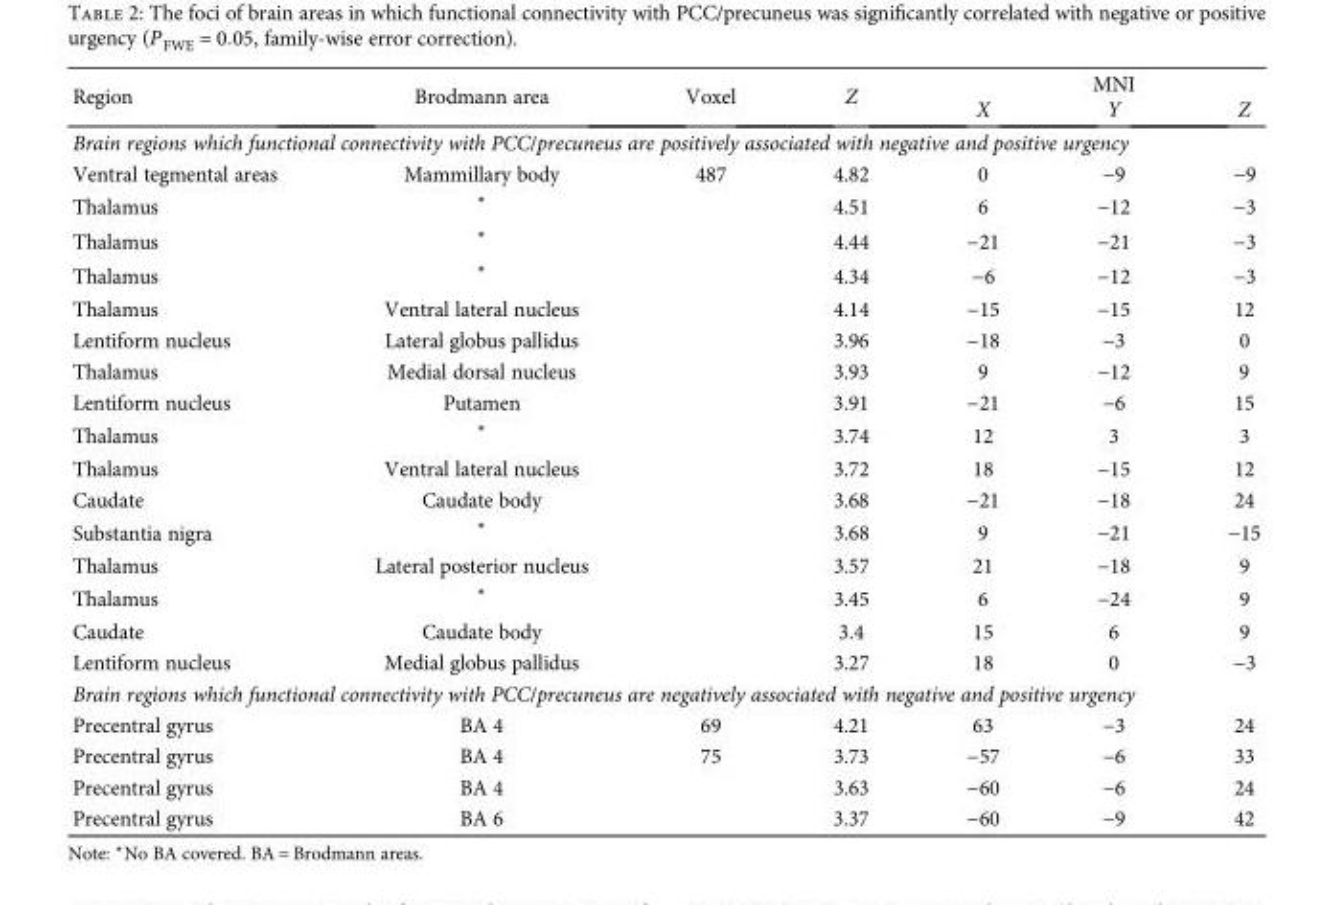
<table><thead><tr><td rowspan="2">Region</td><td rowspan="2">Brodmann area</td><td rowspan="2">Voxel</td><td rowspan="2">Z</td><td colspan="3">MNI</td></tr><tr><td>X</td><td>Y</td><td>Z</td></tr></thead><tbody><tr><td colspan="7">Brain regions which functional connectivity with PCC/precuneus are positively associated with negative and positive urgency</td></tr><tr><td>Ventral tegmental areas</td><td>Mammillary body</td><td>487</td><td>4.82</td><td>0</td><td>−9</td><td>−9</td></tr><tr><td>Thalamus</td><td>∗</td><td></td><td>4.51</td><td>6</td><td>−12</td><td>−3</td></tr><tr><td>Thalamus</td><td>∗</td><td></td><td>4.44</td><td>−21</td><td>−21</td><td>−3</td></tr><tr><td>Thalamus</td><td>∗</td><td></td><td>4.34</td><td>−6</td><td>−12</td><td>−3</td></tr><tr><td>Thalamus</td><td>Ventral lateral nucleus</td><td></td><td>4.14</td><td>−15</td><td>−15</td><td>12</td></tr><tr><td>Lentiform nucleus</td><td>Lateral globus pallidus</td><td></td><td>3.96</td><td>−18</td><td>−3</td><td>0</td></tr><tr><td>Thalamus</td><td>Medial dorsal nucleus</td><td></td><td>3.93</td><td>9</td><td>−12</td><td>9</td></tr><tr><td>Lentiform nucleus</td><td>Putamen</td><td></td><td>3.91</td><td>−21</td><td>−6</td><td>15</td></tr><tr><td>Thalamus</td><td>∗</td><td></td><td>3.74</td><td>12</td><td>3</td><td>3</td></tr><tr><td>Thalamus</td><td>Ventral lateral nucleus</td><td></td><td>3.72</td><td>18</td><td>−15</td><td>12</td></tr><tr><td>Caudate</td><td>Caudate body</td><td></td><td>3.68</td><td>−21</td><td>−18</td><td>24</td></tr><tr><td>Substantia nigra</td><td>∗</td><td></td><td>3.68</td><td>9</td><td>−21</td><td>−15</td></tr><tr><td>Thalamus</td><td>Lateral posterior nucleus</td><td></td><td>3.57</td><td>21</td><td>−18</td><td>9</td></tr><tr><td>Thalamus</td><td>∗</td><td></td><td>3.45</td><td>6</td><td>−24</td><td>9</td></tr><tr><td>Caudate</td><td>Caudate body</td><td></td><td>3.4</td><td>15</td><td>6</td><td>9</td></tr><tr><td>Lentiform nucleus</td><td>Medial globus pallidus</td><td></td><td>3.27</td><td>18</td><td>0</td><td>−3</td></tr><tr><td colspan="7">Brain regions which functional connectivity with PCC/precuneus are negatively associated with negative and positive urgency</td></tr><tr><td>Precentral gyrus</td><td>BA 4</td><td>69</td><td>4.21</td><td>63</td><td>−3</td><td>24</td></tr><tr><td>Precentral gyrus</td><td>BA 4</td><td>75</td><td>3.73</td><td>−57</td><td>−6</td><td>33</td></tr><tr><td>Precentral gyrus</td><td>BA 4</td><td></td><td>3.63</td><td>−60</td><td>−6</td><td>24</td></tr><tr><td>Precentral gyrus</td><td>BA 6</td><td></td><td>3.37</td><td>−60</td><td>−9</td><td>42</td></tr></tbody></table>